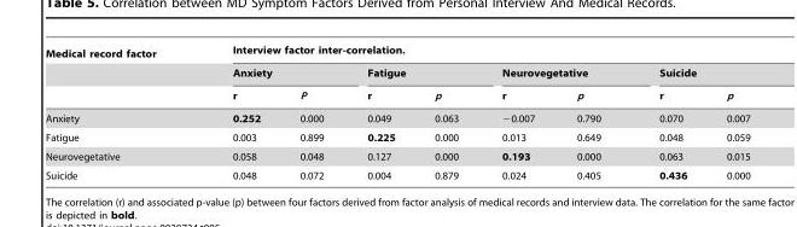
<table><thead><tr><td rowspan="3">Medical record factor</td><td colspan="8">Interview factor inter-correlation.</td></tr><tr><td colspan="2">Anxiety</td><td colspan="2">Fatigue</td><td colspan="2">Neurovegetative</td><td colspan="2">Suicide</td></tr><tr><td>r</td><td>P</td><td>r</td><td>p</td><td>r</td><td>p</td><td>r</td><td>p</td></tr></thead><tbody><tr><td>Anxiety</td><td>0.252</td><td>0.000</td><td>0.049</td><td>0.063</td><td>−0.007</td><td>0.790</td><td>0.070</td><td>0.007</td></tr><tr><td>Fatigue</td><td>0.003</td><td>0.899</td><td>0.225</td><td>0.000</td><td>0.013</td><td>0.649</td><td>0.048</td><td>0.059</td></tr><tr><td>Neurovegetative</td><td>0.058</td><td>0.048</td><td>0.127</td><td>0.000</td><td>0.193</td><td>0.000</td><td>0.063</td><td>0.015</td></tr><tr><td>Suicide</td><td>0.048</td><td>0.072</td><td>0.004</td><td>0.879</td><td>0.024</td><td>0.405</td><td>0.436</td><td>0.000</td></tr></tbody></table>